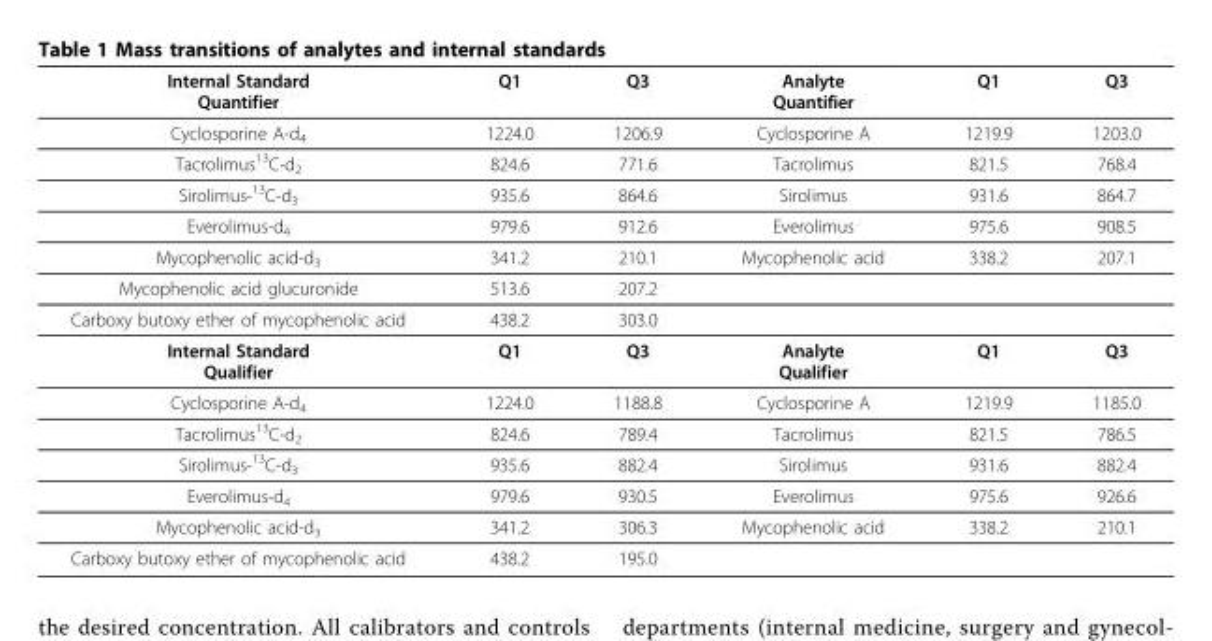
<table><thead><tr><td>Internal Standard Quantifier</td><td>Q1</td><td>Q3</td><td>Analyte Quantifier</td><td>Q1</td><td>Q3</td></tr></thead><tbody><tr><td>Cyclosporine A-d<sub>4</sub></td><td>1224.0</td><td>1206.9</td><td>Cyclosporine A</td><td>1219.9</td><td>1203.0</td></tr><tr><td>Tacrolimus<sup>13</sup>C-d<sub>2</sub></td><td>824.6</td><td>771.6</td><td>Tacrolimus</td><td>821.5</td><td>768.4</td></tr><tr><td>Sirolimus-<sup>13</sup>C-d<sub>3</sub></td><td>935.6</td><td>864.6</td><td>Sirolimus</td><td>931.6</td><td>864.7</td></tr><tr><td>Everolimus-d<sub>4</sub></td><td>979.6</td><td>912.6</td><td>Everolimus</td><td>975.6</td><td>908.5</td></tr><tr><td>Mycophenolic acid-d<sub>3</sub></td><td>341.2</td><td>210.1</td><td>Mycophenolic acid</td><td>338.2</td><td>207.1</td></tr><tr><td>Mycophenolic acid glucuronide</td><td>513.6</td><td>207.2</td><td></td><td></td><td></td></tr><tr><td>Carboxy butoxy ether of mycophenolic acid</td><td>438.2</td><td>303.0</td><td></td><td></td><td></td></tr><tr><td>Internal Standard Qualifier</td><td>Q1</td><td>Q3</td><td>Analyte Qualifier</td><td>Q1</td><td>Q3</td></tr><tr><td>Cyclosporine A-d<sub>4</sub></td><td>1224.0</td><td>1188.8</td><td>Cyclosporine A</td><td>1219.9</td><td>1185.0</td></tr><tr><td>Tacrolimus<sup>13</sup>C-d<sub>2</sub></td><td>824.6</td><td>789.4</td><td>Tacrolimus</td><td>821.5</td><td>786.5</td></tr><tr><td>Sirolimus-<sup>13</sup>C-d<sub>3</sub></td><td>935.6</td><td>882.4</td><td>Sirolimus</td><td>931.6</td><td>882.4</td></tr><tr><td>Everolimus-d<sub>4</sub></td><td>979.6</td><td>930.5</td><td>Everolimus</td><td>975.6</td><td>926.6</td></tr><tr><td>Mycophenolic acid-d<sub>3</sub></td><td>341.2</td><td>306.3</td><td>Mycophenolic acid</td><td>338.2</td><td>210.1</td></tr><tr><td>Carboxy butoxy ether of mycophenolic acid</td><td>438.2</td><td>195.0</td><td></td><td></td><td></td></tr></tbody></table>